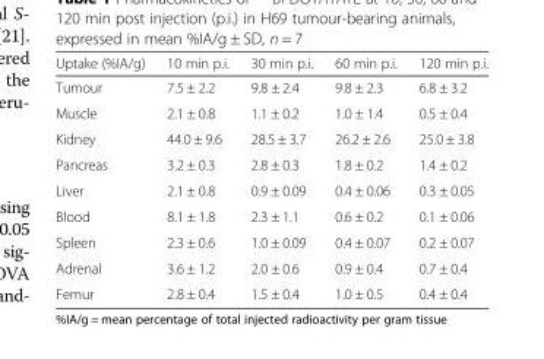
<table><thead><tr><td>Uptake (%IA/g)</td><td>10 min p.i.</td><td>30 min p.i.</td><td>60 min p.i.</td><td>120 min p.i.</td></tr></thead><tbody><tr><td>Tumour</td><td>7.5 ± 2.2</td><td>9.8 ± 2.4</td><td>9.8 ± 2.3</td><td>6.8 ± 3.2</td></tr><tr><td>Muscle</td><td>2.1 ± 0.8</td><td>1.1 ± 0.2</td><td>1.0 ± 1.4</td><td>0.5 ± 0.4</td></tr><tr><td>Kidney</td><td>44.0 ± 9.6</td><td>28.5 ± 3.7</td><td>26.2 ± 2.6</td><td>25.0 ± 3.8</td></tr><tr><td>Pancreas</td><td>3.2 ± 0.3</td><td>2.8 ± 0.3</td><td>1.8 ± 0.2</td><td>1.4 ± 0.2</td></tr><tr><td>Liver</td><td>2.1 ± 0.8</td><td>0.9 ± 0.09</td><td>0.4 ± 0.06</td><td>0.3 ± 0.05</td></tr><tr><td>Blood</td><td>8.1 ± 1.8</td><td>2.3 ± 1.1</td><td>0.6 ± 0.2</td><td>0.1 ± 0.06</td></tr><tr><td>Spleen</td><td>2.3 ± 0.6</td><td>1.0 ± 0.09</td><td>0.4 ± 0.07</td><td>0.2 ± 0.07</td></tr><tr><td>Adrenal</td><td>3.6 ± 1.2</td><td>2.0 ± 0.6</td><td>0.9 ± 0.4</td><td>0.7 ± 0.4</td></tr><tr><td>Femur</td><td>2.8 ± 0.4</td><td>1.5 ± 0.4</td><td>1.0 ± 0.5</td><td>0.4 ± 0.4</td></tr></tbody></table>